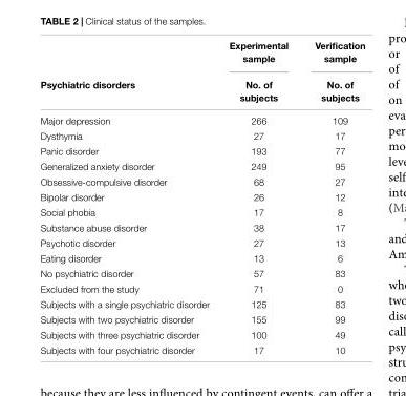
<table><thead><tr><td rowspan="2">Psychiatric disorders</td><td rowspan="2">Experimental sample No. of subjects</td><td rowspan="2">Verification sample No. of subjects</td></tr><tr></tr></thead><tbody><tr><td>Major depression</td><td>266</td><td>109</td></tr><tr><td>Dysthymia</td><td>27</td><td>17</td></tr><tr><td>Panic disorder</td><td>193</td><td>77</td></tr><tr><td>Generalized anxiety disorder</td><td>249</td><td>95</td></tr><tr><td>Obsessive-compulsive disorder</td><td>68</td><td>27</td></tr><tr><td>Bipolar disorder</td><td>26</td><td>12</td></tr><tr><td>Social phobia</td><td>17</td><td>8</td></tr><tr><td>Substance abuse disorder</td><td>38</td><td>17</td></tr><tr><td>Psychotic disorder</td><td>27</td><td>13</td></tr><tr><td>Eating disorder</td><td>13</td><td>6</td></tr><tr><td>No psychiatric disorder</td><td>57</td><td>83</td></tr><tr><td>Excluded from the study</td><td>71</td><td>0</td></tr><tr><td>Subjects with a single psychiatric disorder</td><td>125</td><td>83</td></tr><tr><td>Subjects with two psychiatric disorder</td><td>155</td><td>99</td></tr><tr><td>Subjects with three psychiatric disorder</td><td>100</td><td>49</td></tr><tr><td>Subjects with four psychiatric disorder</td><td>17</td><td>10</td></tr></tbody></table>